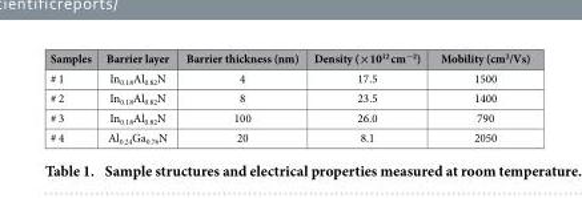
<table><thead><tr><td>Samples</td><td>Barrier layer</td><td>Barrier thickness (nm)</td><td>Density (×10<sup>12</sup> cm<sup>−2</sup>)</td><td>Mobility (cm<sup>2</sup>/Vs)</td></tr></thead><tbody><tr><td># 1</td><td>In<sub>0.18</sub>Al<sub>0.82</sub>N</td><td>4</td><td>17.5</td><td>1500</td></tr><tr><td># 2</td><td>In<sub>0.18</sub>Al<sub>0.82</sub>N</td><td>8</td><td>23.5</td><td>1400</td></tr><tr><td># 3</td><td>In<sub>0.18</sub>Al<sub>0.82</sub>N</td><td>100</td><td>26.0</td><td>790</td></tr><tr><td># 4</td><td>Al<sub>0.24</sub>Ga<sub>0.76</sub>N</td><td>20</td><td>8.1</td><td>2050</td></tr></tbody></table>